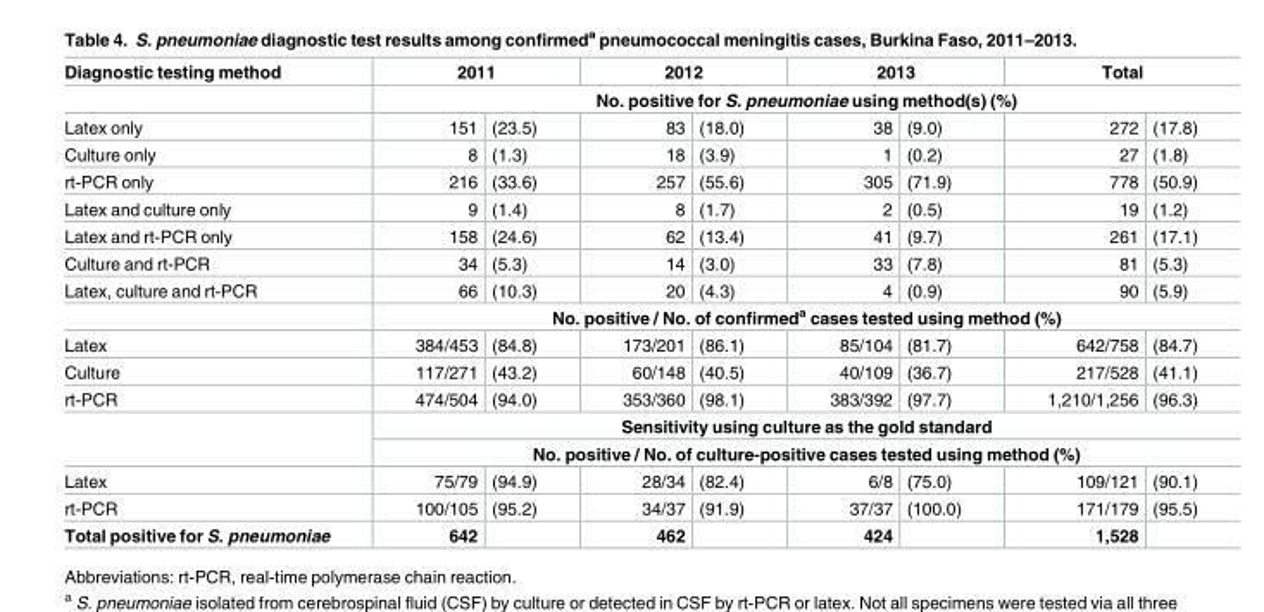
<table><thead><tr><td rowspan="3">Diagnostic testing method Latex only</td><td colspan="2">2011</td><td colspan="2">2012</td><td colspan="2">2013</td><td colspan="2">Total</td></tr><tr><td colspan="8">No. positive for S. pneumoniae using method(s) (%)</td></tr><tr><td>151</td><td>(23.5)</td><td>83</td><td>(18.0)</td><td>38</td><td>(9.0)</td><td>272</td><td>(17.8)</td></tr></thead><tbody><tr><td>Culture only</td><td>8</td><td>(1.3)</td><td>18</td><td>(3.9)</td><td>1</td><td>(0.2)</td><td>27</td><td>(1.8)</td></tr><tr><td>rt-PCR only</td><td>216</td><td>(33.6)</td><td>257</td><td>(55.6)</td><td>305</td><td>(71.9)</td><td>778</td><td>(50.9)</td></tr><tr><td>Latex and culture only</td><td>9</td><td>(1.4)</td><td>8</td><td>(1.7)</td><td>2</td><td>(0.5)</td><td>19</td><td>(1.2)</td></tr><tr><td>Latex and rt-PCR only</td><td>158</td><td>(24.6)</td><td>62</td><td>(13.4)</td><td>41</td><td>(9.7)</td><td>261</td><td>(17.1)</td></tr><tr><td>Culture and rt-PCR</td><td>34</td><td>(5.3)</td><td>14</td><td>(3.0)</td><td>33</td><td>(7.8)</td><td>81</td><td>(5.3)</td></tr><tr><td rowspan="2">Latex, culture and rt-PCR</td><td>66</td><td>(10.3)</td><td>20</td><td>(4.3)</td><td>4</td><td>(0.9)</td><td>90</td><td>(5.9)</td></tr><tr><td colspan="8">No. positive / No. of confirmed<sup>a</sup> cases tested using method (%)</td></tr><tr><td>Latex</td><td>384/453</td><td>(84.8)</td><td>173/201</td><td>(86.1)</td><td>85/104</td><td>(81.7)</td><td>642/758</td><td>(84.7)</td></tr><tr><td>Culture</td><td>117/271</td><td>(43.2)</td><td>60/148</td><td>(40.5)</td><td>40/109</td><td>(36.7)</td><td>217/528</td><td>(41.1)</td></tr><tr><td rowspan="3">rt-PCR</td><td>474/504</td><td>(94.0)</td><td>353/360</td><td>(98.1)</td><td>383/392</td><td>(97.7)</td><td>1,210/1,256</td><td>(96.3)</td></tr><tr><td colspan="8">Sensitivity using culture as the gold standard</td></tr><tr><td colspan="8">No. positive / No. of culture-positive cases tested using method (%)</td></tr><tr><td>Latex</td><td>75/79</td><td>(94.9)</td><td>28/34</td><td>(82.4)</td><td>6/8</td><td>(75.0)</td><td>109/121</td><td>(90.1)</td></tr><tr><td>rt-PCR</td><td>100/105</td><td>(95.2)</td><td>34/37</td><td>(91.9)</td><td>37/37</td><td>(100.0)</td><td>171/179</td><td>(95.5)</td></tr><tr><td>Total positive for S. pneumoniae</td><td>642</td><td></td><td>462</td><td></td><td>424</td><td></td><td>1,528</td><td></td></tr></tbody></table>